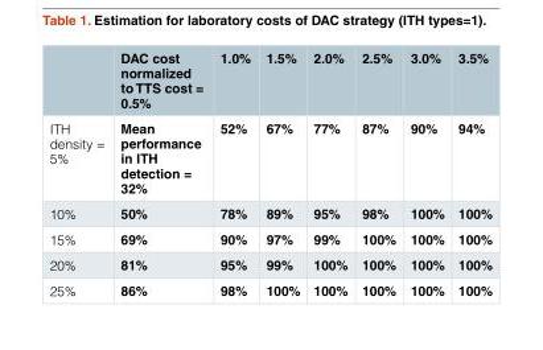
<table><thead><tr><td></td><td>DAC cost normalized to TTS cost = 0.5%</td><td>1.0%</td><td>1.5%</td><td>2.0%</td><td>2.5%</td><td>3.0%</td><td>3.5%</td></tr></thead><tbody><tr><td>ITH density = 5%</td><td>Mean performance in ITH detection = 32%</td><td>52%</td><td>67%</td><td>77%</td><td>87%</td><td>90%</td><td>94%</td></tr><tr><td>10%</td><td>50%</td><td>78%</td><td>89%</td><td>95%</td><td>98%</td><td>100%</td><td>100%</td></tr><tr><td>15%</td><td>69%</td><td>90%</td><td>97%</td><td>99%</td><td>100%</td><td>100%</td><td>100%</td></tr><tr><td>20%</td><td>81%</td><td>95%</td><td>99%</td><td>100%</td><td>100%</td><td>100%</td><td>100%</td></tr><tr><td>25%</td><td>86%</td><td>98%</td><td>100%</td><td>100%</td><td>100%</td><td>100%</td><td>100%</td></tr></tbody></table>